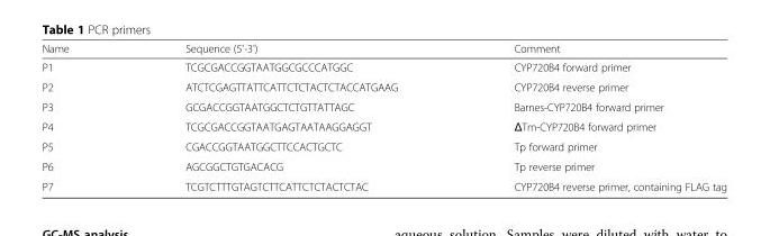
<table><thead><tr><td>Name</td><td>Sequence (5&#x27;-3&#x27;)</td><td>Comment</td></tr></thead><tbody><tr><td>P1</td><td>TCGCGACCGGTAATGGCGCCCATGGC</td><td>CYP720B4 forward primer</td></tr><tr><td>P2</td><td>ATCTCGAGTTATTCATTCTCTACTCTACCATGAAG</td><td>CYP720B4 reverse primer</td></tr><tr><td>P3</td><td>GCGACCGGTAATGGCTCTGTTATTAGC</td><td>Barnes-CYP720B4 forward primer</td></tr><tr><td>P4</td><td>TCGCGACCGGTAATGAGTAATAAGGAGGT</td><td>ΔTm-CYP720B4 forward primer</td></tr><tr><td>P5</td><td>CGACCGGTAATGGCTTCCACTGCTC</td><td>Tp forward primer</td></tr><tr><td>P6</td><td>AGCGGCTGTGACACG</td><td>Tp reverse primer</td></tr><tr><td>P7</td><td>TCGTCTTTGTAGTCTTCATTCTCTACTCTAC</td><td>CYP720B4 reverse primer, containing FLAG tag</td></tr></tbody></table>